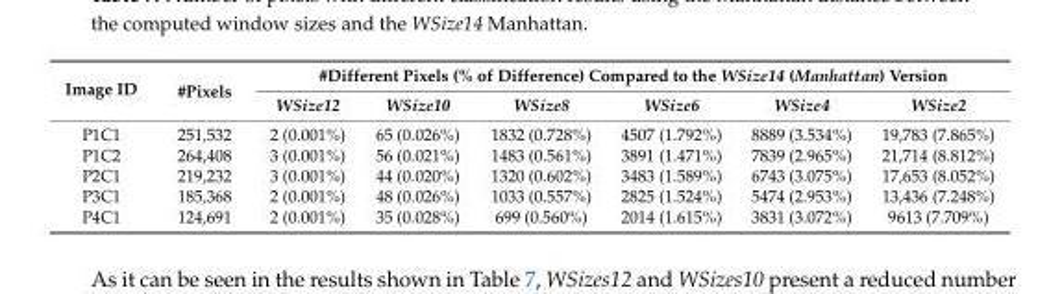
<table><thead><tr><td rowspan="2">Image ID</td><td rowspan="2">#Pixels</td><td colspan="6">#Different Pixels (% of Difference) Compared to the WSize14 (Manhattan) Version</td></tr><tr><td>WSize12</td><td>WSize10</td><td>WSize8</td><td>WSize6</td><td>WSize4</td><td>WSize2</td></tr></thead><tbody><tr><td>P1C1</td><td>251,532</td><td>2 (0.001%)</td><td>65 (0.026%)</td><td>1832 (0.728%)</td><td>4507 (1.792%)</td><td>8889 (3.534%)</td><td>19,783 (7.865%)</td></tr><tr><td>P1C2</td><td>264,408</td><td>3 (0.001%)</td><td>56 (0.021%)</td><td>1483 (0.561%)</td><td>3891 (1.471%)</td><td>7839 (2.965%)</td><td>21,714 (8.812%)</td></tr><tr><td>P2C1</td><td>219,232</td><td>3 (0.001%)</td><td>44 (0.020%)</td><td>1320 (0.602%)</td><td>3483 (1.589%)</td><td>6743 (3.075%)</td><td>17,653 (8.052%)</td></tr><tr><td>P3C1</td><td>185,368</td><td>2 (0.001%)</td><td>48 (0.026%)</td><td>1033 (0.557%)</td><td>2825 (1.524%)</td><td>5474 (2.953%)</td><td>13,436 (7.248%)</td></tr><tr><td>P4C1</td><td>124,691</td><td>2 (0.001%)</td><td>35 (0.028%)</td><td>699 (0.560%)</td><td>2014 (1.615%)</td><td>3831 (3.072%)</td><td>9613 (7.709%)</td></tr></tbody></table>